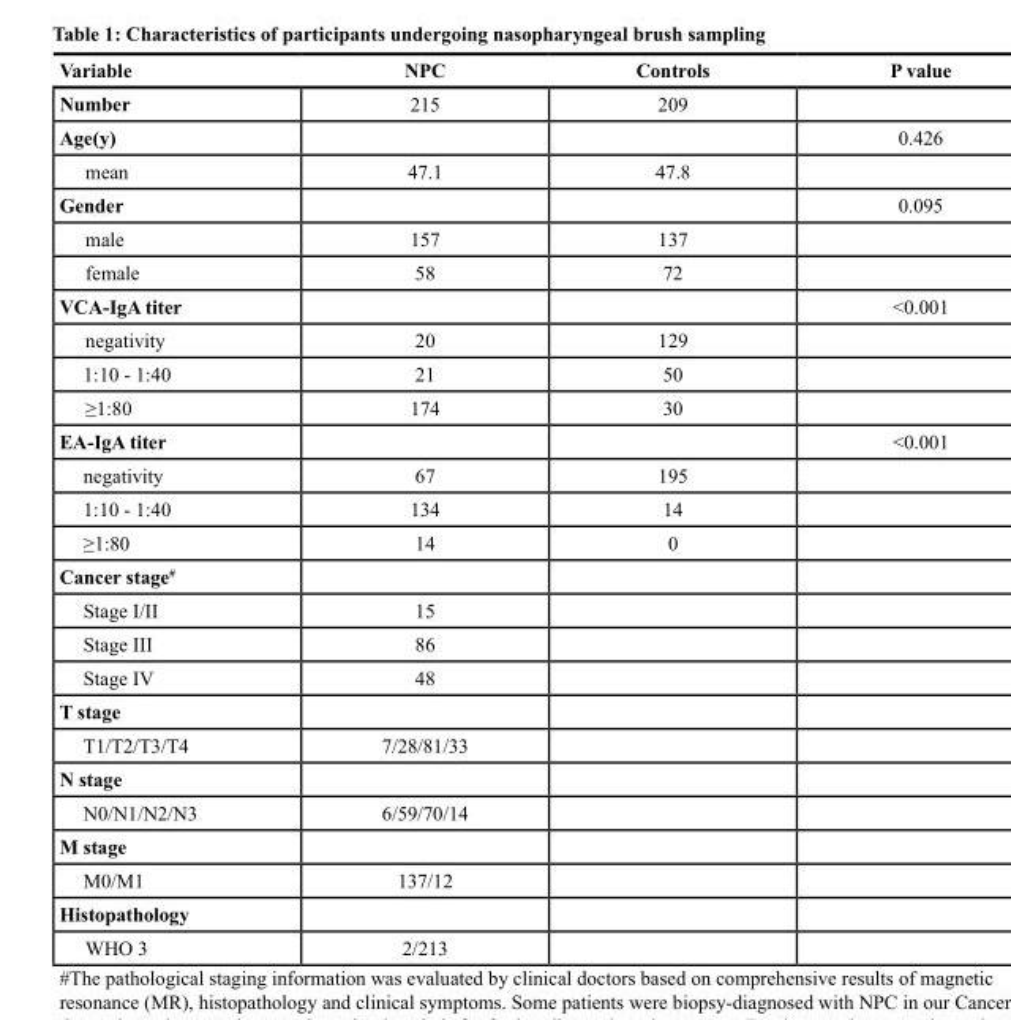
<table><thead><tr><td>Variable</td><td>NPC</td><td>Controls</td><td>P value</td></tr></thead><tbody><tr><td>Number</td><td>215</td><td>209</td><td></td></tr><tr><td>Age(y)</td><td></td><td></td><td>0.426</td></tr><tr><td>mean</td><td>47.1</td><td>47.8</td><td></td></tr><tr><td>Gender</td><td></td><td></td><td>0.095</td></tr><tr><td>male</td><td>157</td><td>137</td><td></td></tr><tr><td>female</td><td>58</td><td>72</td><td></td></tr><tr><td>VCA-IgA titer</td><td></td><td></td><td>&lt;0.001</td></tr><tr><td>negativity</td><td>20</td><td>129</td><td></td></tr><tr><td>1:10 - 1:40</td><td>21</td><td>50</td><td></td></tr><tr><td>≥1:80</td><td>174</td><td>30</td><td></td></tr><tr><td>EA-IgA titer</td><td></td><td></td><td>&lt;0.001</td></tr><tr><td>negativity</td><td>67</td><td>195</td><td></td></tr><tr><td>1:10 - 1:40</td><td>134</td><td>14</td><td></td></tr><tr><td>≥1:80</td><td>14</td><td>0</td><td></td></tr><tr><td colspan="4">Cancer stage<sup>#</sup></td></tr><tr><td>Stage I/II</td><td>15</td><td></td><td></td></tr><tr><td>Stage III</td><td>86</td><td></td><td></td></tr><tr><td>Stage IV</td><td>48</td><td></td><td></td></tr><tr><td colspan="4">T stage</td></tr><tr><td>T1/T2/T3/T4</td><td>7/28/81/33</td><td></td><td></td></tr><tr><td colspan="4">N stage</td></tr><tr><td>N0/N1/N2/N3</td><td>6/59/70/14</td><td></td><td></td></tr><tr><td colspan="4">M stage</td></tr><tr><td>M0/M1</td><td>137/12</td><td></td><td></td></tr><tr><td colspan="4">Histopathology</td></tr><tr><td>WHO 3</td><td>2/213</td><td></td><td></td></tr></tbody></table>